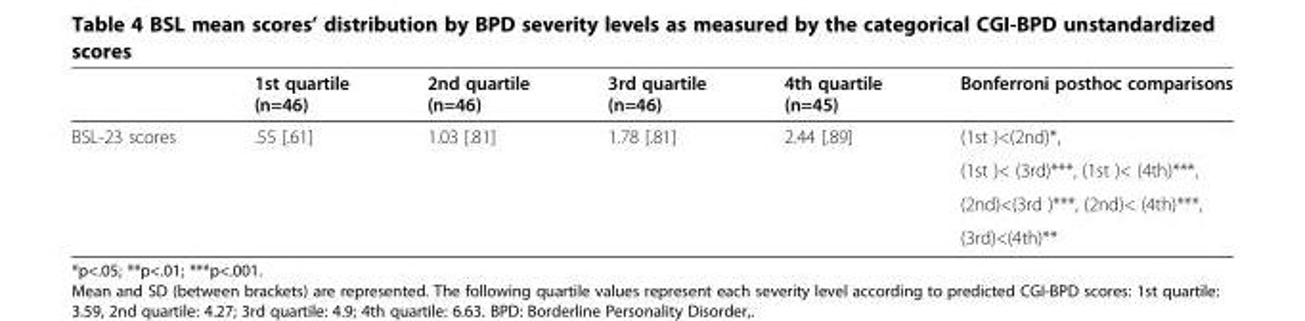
<table><thead><tr><td></td><td>1st quartile (n=46)</td><td>2nd quartile (n=46)</td><td>3rd quartile (n=46)</td><td>4th quartile (n=45)</td><td>Bonferroni posthoc comparisons</td></tr></thead><tbody><tr><td rowspan="4">BSL-23 scores</td><td rowspan="3">.55 [.61]</td><td rowspan="3">1.03 [.81]</td><td rowspan="3">1.78 [.81]</td><td rowspan="3">2.44 [.89]</td><td>(1st )&lt;(2nd)*,</td></tr><tr><td>(1st )&lt; (3rd)***, (1st )&lt; (4th)***,</td></tr><tr><td>(2nd)&lt;(3rd )***, (2nd)&lt; (4th)***,</td></tr><tr><td></td><td></td><td></td><td></td><td>(3rd)&lt;(4th)**</td></tr></tbody></table>